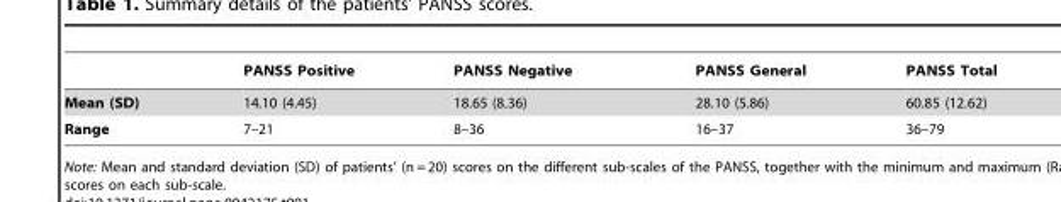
<table><thead><tr><td></td><td>PANSS Positive</td><td>PANSS Negative</td><td>PANSS General</td><td>PANSS Total</td></tr></thead><tbody><tr><td>Mean (SD)</td><td>14.10 (4.45)</td><td>18.65 (8.36)</td><td>28.10 (5.86)</td><td>60.85 (12.62)</td></tr><tr><td>Range</td><td>7–21</td><td>8–36</td><td>16–37</td><td>36–79</td></tr></tbody></table>